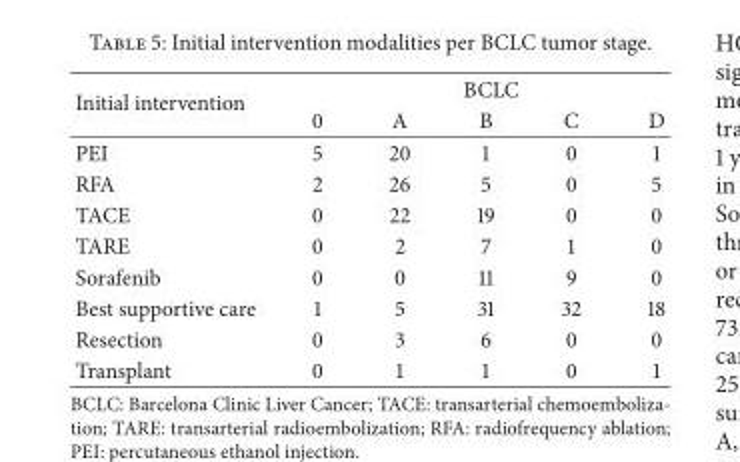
<table><thead><tr><td rowspan="2">Initial intervention</td><td colspan="5">BCLC</td></tr><tr><td>0</td><td>A</td><td>B</td><td>C</td><td>D</td></tr></thead><tbody><tr><td>PEI</td><td>5</td><td>20</td><td>1</td><td>0</td><td>1</td></tr><tr><td>RFA</td><td>2</td><td>26</td><td>5</td><td>0</td><td>5</td></tr><tr><td>TACE</td><td>0</td><td>22</td><td>19</td><td>0</td><td>0</td></tr><tr><td>TARE</td><td>0</td><td>2</td><td>7</td><td>1</td><td>0</td></tr><tr><td>Sorafenib</td><td>0</td><td>0</td><td>11</td><td>9</td><td>0</td></tr><tr><td>Best supportive care</td><td>1</td><td>5</td><td>31</td><td>32</td><td>18</td></tr><tr><td>Resection</td><td>0</td><td>3</td><td>6</td><td>0</td><td>0</td></tr><tr><td>Transplant</td><td>0</td><td>1</td><td>1</td><td>0</td><td>1</td></tr></tbody></table>